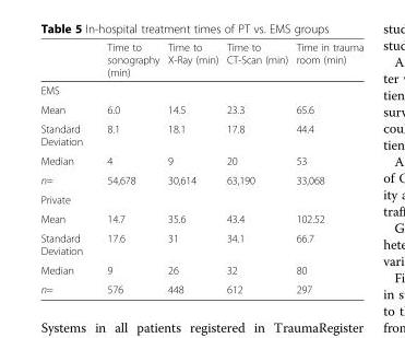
<table><thead><tr><td></td><td>Time to sonography (min)</td><td>Time to X-Ray (min)</td><td>Time to CT-Scan (min)</td><td>Time in trauma room (min)</td></tr></thead><tbody><tr><td colspan="5">EMS</td></tr><tr><td>Mean</td><td>6.0</td><td>14.5</td><td>23.3</td><td>65.6</td></tr><tr><td>Standard Deviation</td><td>8.1</td><td>18.1</td><td>17.8</td><td>44.4</td></tr><tr><td>Median</td><td>4</td><td>9</td><td>20</td><td>53</td></tr><tr><td>n=</td><td>54,678</td><td>30,614</td><td>63,190</td><td>33,068</td></tr><tr><td colspan="5">Private</td></tr><tr><td>Mean</td><td>14.7</td><td>35.6</td><td>43.4</td><td>102.52</td></tr><tr><td>Standard Deviation</td><td>17.6</td><td>31</td><td>34.1</td><td>66.7</td></tr><tr><td>Median</td><td>9</td><td>26</td><td>32</td><td>80</td></tr><tr><td>n=</td><td>576</td><td>448</td><td>612</td><td>297</td></tr></tbody></table>